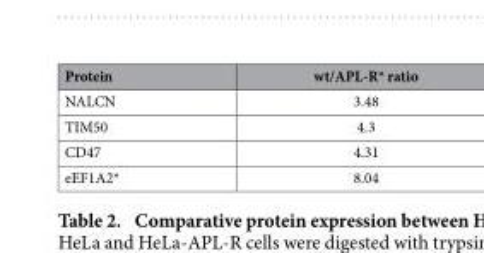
<table><thead><tr><td>Protein</td><td>wt/APL-R* ratio</td></tr></thead><tbody><tr><td>NALCN</td><td>3.48</td></tr><tr><td>TIM50</td><td>4.3</td></tr><tr><td>CD47</td><td>4.31</td></tr><tr><td>eEF1A2*</td><td>8.04</td></tr></tbody></table>